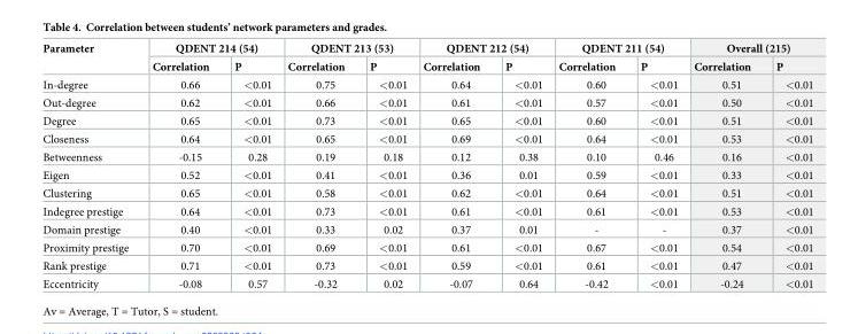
<table><thead><tr><td rowspan="2">Parameter</td><td colspan="2">QDENT 214 (54)</td><td colspan="2">QDENT 213 (53)</td><td colspan="2">QDENT 212 (54)</td><td colspan="2">QDENT 211 (54)</td><td colspan="2">Overall (215)</td></tr><tr><td>Correlation</td><td>P</td><td>Correlation</td><td>P</td><td>Correlation</td><td>P</td><td>Correlation</td><td>P</td><td>Correlation</td><td>P</td></tr></thead><tbody><tr><td>In-degree</td><td>0.66</td><td>&lt;0.01</td><td>0.75</td><td>&lt;0.01</td><td>0.64</td><td>&lt;0.01</td><td>0.60</td><td>&lt;0.01</td><td>0.51</td><td>&lt;0.01</td></tr><tr><td>Out-degree</td><td>0.62</td><td>&lt;0.01</td><td>0.66</td><td>&lt;0.01</td><td>0.61</td><td>&lt;0.01</td><td>0.57</td><td>&lt;0.01</td><td>0.50</td><td>&lt;0.01</td></tr><tr><td>Degree</td><td>0.65</td><td>&lt;0.01</td><td>0.73</td><td>&lt;0.01</td><td>0.65</td><td>&lt;0.01</td><td>0.60</td><td>&lt;0.01</td><td>0.51</td><td>&lt;0.01</td></tr><tr><td>Closeness</td><td>0.64</td><td>&lt;0.01</td><td>0.65</td><td>&lt;0.01</td><td>0.69</td><td>&lt;0.01</td><td>0.64</td><td>&lt;0.01</td><td>0.53</td><td>&lt;0.01</td></tr><tr><td>Betweenness</td><td>-0.15</td><td>0.28</td><td>0.19</td><td>0.18</td><td>0.12</td><td>0.38</td><td>0.10</td><td>0.46</td><td>0.16</td><td>&lt;0.01</td></tr><tr><td>Eigen</td><td>0.52</td><td>&lt;0.01</td><td>0.41</td><td>&lt;0.01</td><td>0.36</td><td>0.01</td><td>0.59</td><td>&lt;0.01</td><td>0.33</td><td>&lt;0.01</td></tr><tr><td>Clustering</td><td>0.65</td><td>&lt;0.01</td><td>0.58</td><td>&lt;0.01</td><td>0.62</td><td>&lt;0.01</td><td>0.64</td><td>&lt;0.01</td><td>0.51</td><td>&lt;0.01</td></tr><tr><td>Indegree prestige</td><td>0.64</td><td>&lt;0.01</td><td>0.73</td><td>&lt;0.01</td><td>0.61</td><td>&lt;0.01</td><td>0.61</td><td>&lt;0.01</td><td>0.53</td><td>&lt;0.01</td></tr><tr><td>Domain prestige</td><td>0.40</td><td>&lt;0.01</td><td>0.33</td><td>0.02</td><td>0.37</td><td>0.01</td><td>-</td><td>-</td><td>0.37</td><td>&lt;0.01</td></tr><tr><td>Proximity prestige</td><td>0.70</td><td>&lt;0.01</td><td>0.69</td><td>&lt;0.01</td><td>0.61</td><td>&lt;0.01</td><td>0.67</td><td>&lt;0.01</td><td>0.54</td><td>&lt;0.01</td></tr><tr><td>Rank prestige</td><td>0.71</td><td>&lt;0.01</td><td>0.73</td><td>&lt;0.01</td><td>0.59</td><td>&lt;0.01</td><td>0.61</td><td>&lt;0.01</td><td>0.47</td><td>&lt;0.01</td></tr><tr><td>Eccentricity</td><td>-0.08</td><td>0.57</td><td>-0.32</td><td>0.02</td><td>-0.07</td><td>0.64</td><td>-0.42</td><td>&lt;0.01</td><td>-0.24</td><td>&lt;0.01</td></tr></tbody></table>